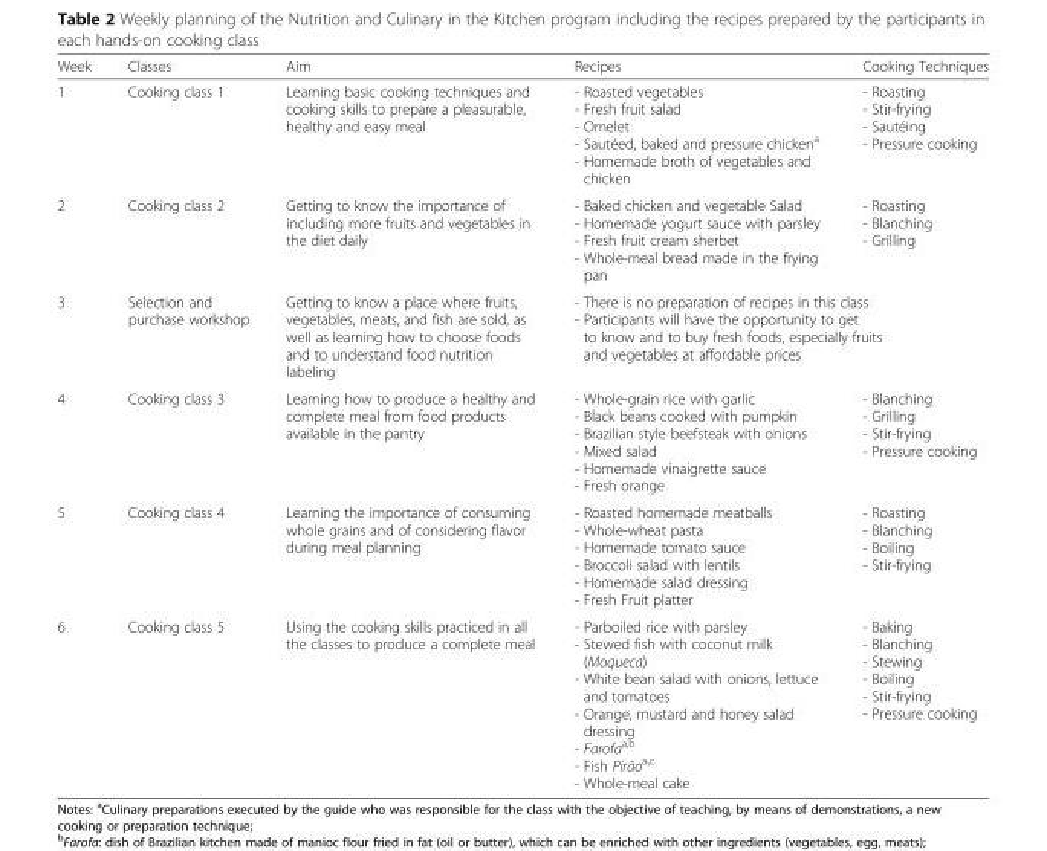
<table><thead><tr><td>Week</td><td>Classes</td><td>Aim</td><td>Recipes</td><td>Cooking Techniques</td></tr></thead><tbody><tr><td>1</td><td>Cooking class 1</td><td>Learning basic cooking techniques and cooking skills to prepare a pleasurable, healthy and easy meal</td><td>- Roasted vegetables - Fresh fruit salad - Omelet - Sautéed, baked and pressure chicken<sup>a</sup> - Homemade broth of vegetables and chicken</td><td>- Roasting - Stir-frying - Sautéing - Pressure cooking</td></tr><tr><td>2</td><td>Cooking class 2</td><td>Getting to know the importance of including more fruits and vegetables in the diet daily</td><td>- Baked chicken and vegetable Salad - Homemade yogurt sauce with parsley - Fresh fruit cream sherbet - Whole-meal bread made in the frying pan</td><td>- Roasting - Blanching - Grilling</td></tr><tr><td>3</td><td>Selection and purchase workshop</td><td>Getting to know a place where fruits, vegetables, meats, and fish are sold, as well as learning how to choose foods and to understand food nutrition labeling</td><td colspan="2">- There is no preparation of recipes in this class - Participants will have the opportunity to get to know and to buy fresh foods, especially fruits and vegetables at affordable prices</td></tr><tr><td>4</td><td>Cooking class 3</td><td>Learning how to produce a healthy and complete meal from food products available in the pantry</td><td>- Whole-grain rice with garlic - Black beans cooked with pumpkin - Brazilian style beefsteak with onions - Mixed salad - Homemade vinaigrette sauce - Fresh orange</td><td>- Blanching - Grilling - Stir-frying - Pressure cooking</td></tr><tr><td>5</td><td>Cooking class 4</td><td>Learning the importance of consuming whole grains and of considering flavor during meal planning</td><td>- Roasted homemade meatballs - Whole-wheat pasta - Homemade tomato sauce - Broccoli salad with lentils - Homemade salad dressing - Fresh Fruit platter</td><td>- Roasting - Blanching - Boiling - Stir-frying</td></tr><tr><td>6</td><td>Cooking class 5</td><td>Using the cooking skills practiced in all the classes to produce a complete meal</td><td>- Parboiled rice with parsley - Stewed fish with coconut milk (Moqueca) - White bean salad with onions, lettuce and tomatoes - Orange, mustard and honey salad dressing - Farofa<sup>a,b</sup> - Fish Pirão<sup>a,c</sup> - Whole-meal cake</td><td>- Baking - Blanching - Stewing - Boiling - Stir-frying - Pressure cooking</td></tr></tbody></table>